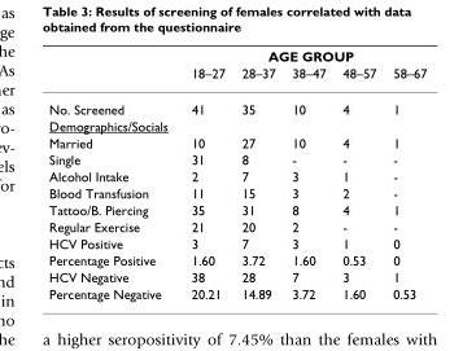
<table><thead><tr><td rowspan="2"></td><td colspan="5">AGE GROUP</td></tr><tr><td>18–27</td><td>28–37</td><td>38–47</td><td>48–57</td><td>58–67</td></tr></thead><tbody><tr><td>No. Screened</td><td>41</td><td>35</td><td>10</td><td>4</td><td>1</td></tr><tr><td colspan="6">Demographics/Socials</td></tr><tr><td>Married</td><td>10</td><td>27</td><td>10</td><td>4</td><td>1</td></tr><tr><td>Single</td><td>31</td><td>8</td><td>-</td><td>-</td><td>-</td></tr><tr><td>Alcohol Intake</td><td>2</td><td>7</td><td>3</td><td>1</td><td>-</td></tr><tr><td>Blood Transfusion</td><td>11</td><td>15</td><td>3</td><td>2</td><td>-</td></tr><tr><td>Tattoo/B. Piercing</td><td>35</td><td>31</td><td>8</td><td>4</td><td>1</td></tr><tr><td>Regular Exercise</td><td>21</td><td>20</td><td>2</td><td>-</td><td>-</td></tr><tr><td>HCV Positive</td><td>3</td><td>7</td><td>3</td><td>1</td><td>0</td></tr><tr><td>Percentage Positive</td><td>1.60</td><td>3.72</td><td>1.60</td><td>0.53</td><td>0</td></tr><tr><td>HCV Negative</td><td>38</td><td>28</td><td>7</td><td>3</td><td>1</td></tr><tr><td>Percentage Negative</td><td>20.21</td><td>14.89</td><td>3.72</td><td>1.60</td><td>0.53</td></tr></tbody></table>